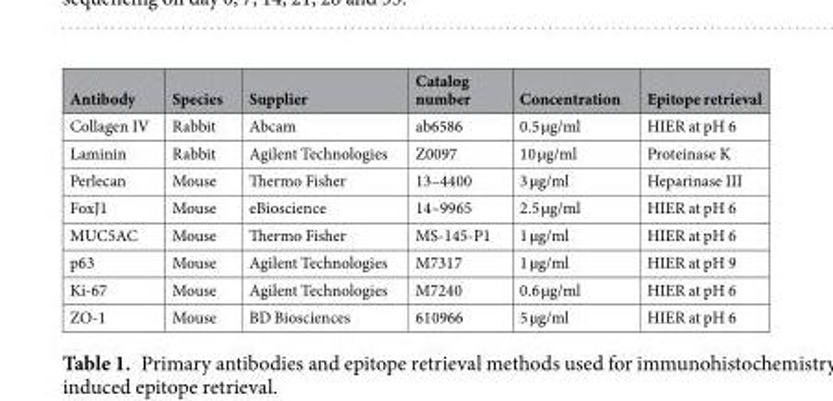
<table><thead><tr><td>Antibody</td><td>Species</td><td>Supplier</td><td>Catalog number</td><td>Concentration</td><td>Epitope retrieval</td></tr></thead><tbody><tr><td>Collagen IV</td><td>Rabbit</td><td>Abcam</td><td>ab6586</td><td>0.5 µg/ml</td><td>HIER at pH 6</td></tr><tr><td>Laminin</td><td>Rabbit</td><td>Agilent Technologies</td><td>Z0097</td><td>10 µg/ml</td><td>Proteinase K</td></tr><tr><td>Perlecan</td><td>Mouse</td><td>Thermo Fisher</td><td>13–4400</td><td>3 µg/ml</td><td>Heparinase III</td></tr><tr><td>FoxJ1</td><td>Mouse</td><td>eBioscience</td><td>14–9965</td><td>2.5 µg/ml</td><td>HIER at pH 6</td></tr><tr><td>MUC5AC</td><td>Mouse</td><td>Thermo Fisher</td><td>MS-145-P1</td><td>1 µg/ml</td><td>HIER at pH 6</td></tr><tr><td>p63</td><td>Mouse</td><td>Agilent Technologies</td><td>M7317</td><td>1 µg/ml</td><td>HIER at pH 9</td></tr><tr><td>Ki-67</td><td>Mouse</td><td>Agilent Technologies</td><td>M7240</td><td>0.6 µg/ml</td><td>HIER at pH 6</td></tr><tr><td>ZO-1</td><td>Mouse</td><td>BD Biosciences</td><td>610966</td><td>5 µg/ml</td><td>HIER at pH 6</td></tr></tbody></table>